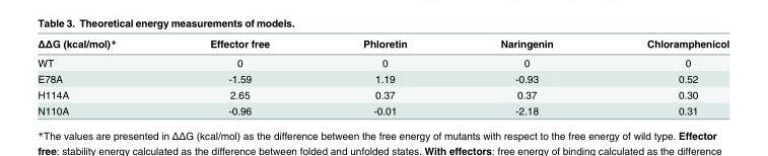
<table><thead><tr><td>ΔΔG (kcal/mol)*</td><td>Effector free</td><td>Phloretin</td><td>Naringenin</td><td>Chloramphenicol</td></tr></thead><tbody><tr><td>WT</td><td>0</td><td>0</td><td>0</td><td>0</td></tr><tr><td>E78A</td><td>-1.59</td><td>1.19</td><td>-0.93</td><td>0.52</td></tr><tr><td>H114A</td><td>2.65</td><td>0.37</td><td>0.37</td><td>0.30</td></tr><tr><td>N110A</td><td>-0.96</td><td>-0.01</td><td>-2.18</td><td>0.31</td></tr></tbody></table>